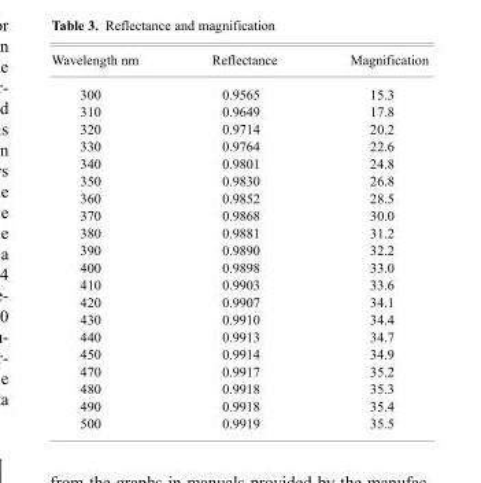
<table><thead><tr><td>Wavelength nm</td><td>Reflectance</td><td>Magnification</td></tr></thead><tbody><tr><td>300</td><td>0.9565</td><td>15.3</td></tr><tr><td>310</td><td>0.9649</td><td>17.8</td></tr><tr><td>320</td><td>0.9714</td><td>20.2</td></tr><tr><td>330</td><td>0.9764</td><td>22.6</td></tr><tr><td>340</td><td>0.9801</td><td>24.8</td></tr><tr><td>350</td><td>0.9830</td><td>26.8</td></tr><tr><td>360</td><td>0.9852</td><td>28.5</td></tr><tr><td>370</td><td>0.9868</td><td>30.0</td></tr><tr><td>380</td><td>0.9881</td><td>31.2</td></tr><tr><td>390</td><td>0.9890</td><td>32.2</td></tr><tr><td>400</td><td>0.9898</td><td>33.0</td></tr><tr><td>410</td><td>0.9903</td><td>33.6</td></tr><tr><td>420</td><td>0.9907</td><td>34.1</td></tr><tr><td>430</td><td>0.9910</td><td>34.4</td></tr><tr><td>440</td><td>0.9913</td><td>34.7</td></tr><tr><td>450</td><td>0.9914</td><td>34.9</td></tr><tr><td>470</td><td>0.9917</td><td>35.2</td></tr><tr><td>480</td><td>0.9918</td><td>35.3</td></tr><tr><td>490</td><td>0.9918</td><td>35.4</td></tr><tr><td>500</td><td>0.9919</td><td>35.5</td></tr></tbody></table>